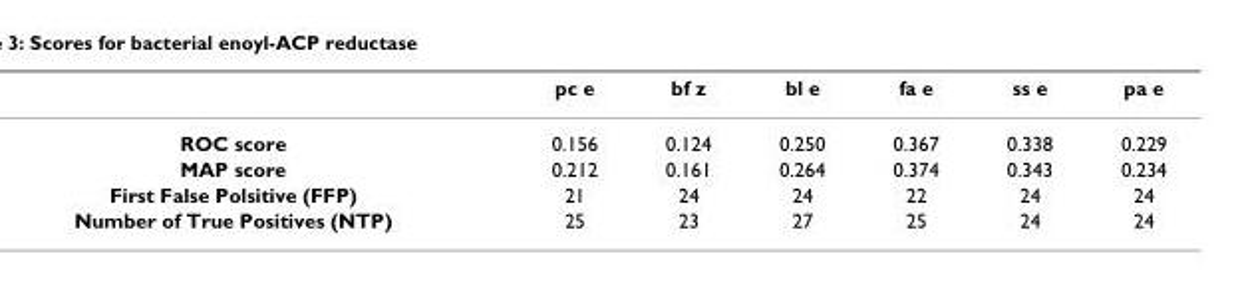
<table><thead><tr><td></td><td>pc e</td><td>bf z</td><td>bl e</td><td>fa e</td><td>ss e</td><td>pa e</td></tr></thead><tbody><tr><td>ROC score</td><td>0.156</td><td>0.124</td><td>0.250</td><td>0.367</td><td>0.338</td><td>0.229</td></tr><tr><td>MAP score</td><td>0.212</td><td>0.161</td><td>0.264</td><td>0.374</td><td>0.343</td><td>0.234</td></tr><tr><td>First False Polsitive (FFP)</td><td>21</td><td>24</td><td>24</td><td>22</td><td>24</td><td>24</td></tr><tr><td>Number of True Positives (NTP)</td><td>25</td><td>23</td><td>27</td><td>25</td><td>24</td><td>24</td></tr></tbody></table>